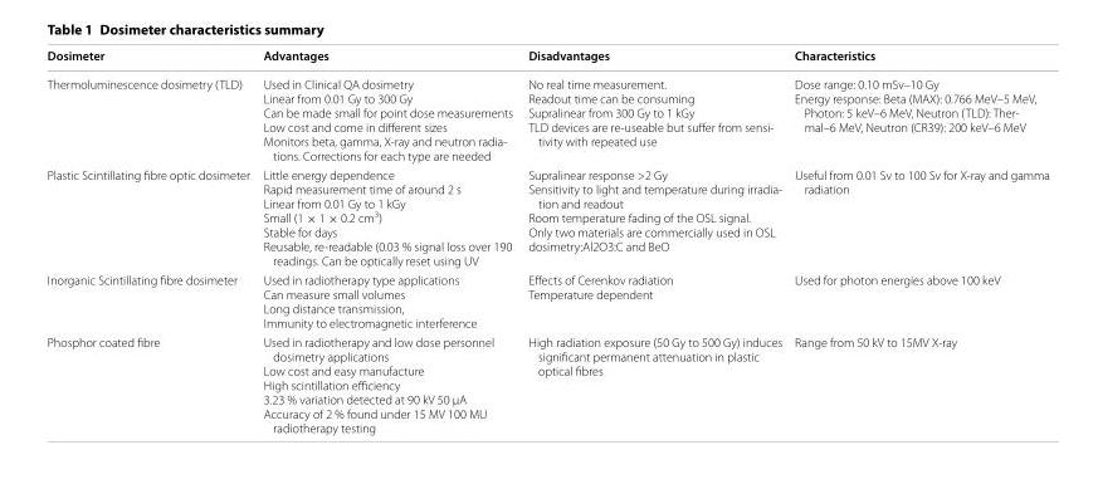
<table><thead><tr><td>Dosimeter</td><td>Advantages</td><td>Disadvantages</td><td>Characteristics</td></tr></thead><tbody><tr><td>Thermoluminescence dosimetry (TLD)</td><td>Used in Clinical QA dosimetry Linear from 0.01 Gy to 300 Gy Can be made small for point dose measurements Low cost and come in different sizes Monitors beta, gamma, X-ray and neutron radia- tions. Corrections for each type are needed</td><td>No real time measurement. Readout time can be consuming Supralinear from 300 Gy to 1 kGy TLD devices are re-useable but suffer from sensi- tivity with repeated use</td><td>Dose range: 0.10 mSv–10 Gy Energy response: Beta (MAX): 0.766 MeV–5 MeV, Photon: 5 keV–6 MeV, Neutron (TLD): Ther- mal–6 MeV, Neutron (CR39): 200 keV–6 MeV</td></tr><tr><td>Plastic Scintillating fibre optic dosimeter</td><td>Little energy dependence Rapid measurement time of around 2 s Linear from 0.01 Gy to 1 kGy Small (1 × 1 × 0.2 cm<sup>3</sup>) Stable for days Reusable, re-readable (0.03 % signal loss over 190 readings. Can be optically reset using UV</td><td>Supralinear response &gt;2 Gy Sensitivity to light and temperature during irradia- tion and readout Room temperature fading of the OSL signal. Only two materials are commercially used in OSL dosimetry:Al2O3:C and BeO</td><td>Useful from 0.01 Sv to 100 Sv for X-ray and gamma radiation</td></tr><tr><td>Inorganic Scintillating fibre dosimeter</td><td>Used in radiotherapy type applications Can measure small volumes Long distance transmission, Immunity to electromagnetic interference</td><td>Effects of Cerenkov radiation Temperature dependent</td><td>Used for photon energies above 100 keV</td></tr><tr><td>Phosphor coated fibre</td><td>Used in radiotherapy and low dose personnel dosimetry applications Low cost and easy manufacture High scintillation efficiency 3.23 % variation detected at 90 kV 50 μA Accuracy of 2 % found under 15 MV 100 MU radiotherapy testing</td><td>High radiation exposure (50 Gy to 500 Gy) induces significant permanent attenuation in plastic optical fibres</td><td>Range from 50 kV to 15MV X-ray</td></tr></tbody></table>